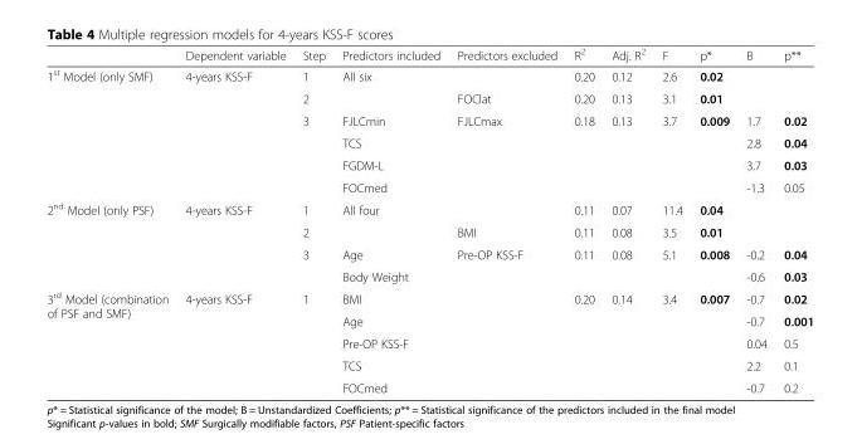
<table><thead><tr><td></td><td>Dependent variable</td><td>Step</td><td>Predictors included</td><td>Predictors excluded</td><td>R<sup>2</sup></td><td>Adj. R<sup>2</sup></td><td>F</td><td>p*</td><td>B</td><td>p**</td></tr></thead><tbody><tr><td rowspan="6">1<sup>st</sup> Model (only SMF)</td><td>4-years KSS-F</td><td>1</td><td colspan="2">All six</td><td>0.20</td><td>0.12</td><td>2.6</td><td>0.02</td><td></td><td></td></tr><tr><td></td><td>2</td><td></td><td>FOClat</td><td>0.20</td><td>0.13</td><td>3.1</td><td>0.01</td><td></td><td></td></tr><tr><td></td><td>3</td><td>FJLCmin</td><td>FJLCmax</td><td>0.18</td><td>0.13</td><td>3.7</td><td>0.009</td><td>1.7</td><td>0.02</td></tr><tr><td></td><td></td><td>TCS</td><td></td><td></td><td></td><td></td><td></td><td>2.8</td><td>0.04</td></tr><tr><td></td><td></td><td colspan="2">FGDM-L</td><td></td><td></td><td></td><td></td><td>3.7</td><td>0.03</td></tr><tr><td></td><td></td><td colspan="2">FOCmed</td><td></td><td></td><td></td><td></td><td>-1.3</td><td>0.05</td></tr><tr><td rowspan="4">2<sup>nd</sup> Model (only PSF)</td><td>4-years KSS-F</td><td>1</td><td colspan="2">All four</td><td>0.11</td><td>0.07</td><td>11.4</td><td>0.04</td><td></td><td></td></tr><tr><td></td><td>2</td><td></td><td>BMI</td><td>0.11</td><td>0.08</td><td>3.5</td><td>0.01</td><td></td><td></td></tr><tr><td></td><td>3</td><td>Age</td><td>Pre-OP KSS-F</td><td>0.11</td><td>0.08</td><td>5.1</td><td>0.008</td><td>-0.2</td><td>0.04</td></tr><tr><td></td><td></td><td colspan="2">Body Weight</td><td></td><td></td><td></td><td></td><td>-0.6</td><td>0.03</td></tr><tr><td rowspan="5">3<sup>rd</sup> Model (combination of PSF and SMF)</td><td>4-years KSS-F</td><td>1</td><td colspan="2">BMI</td><td>0.20</td><td>0.14</td><td>3.4</td><td>0.007</td><td>-0.7</td><td>0.02</td></tr><tr><td></td><td></td><td colspan="2">Age</td><td></td><td></td><td></td><td></td><td>-0.7</td><td>0.001</td></tr><tr><td></td><td></td><td colspan="2">Pre-OP KSS-F</td><td></td><td></td><td></td><td></td><td>0.04</td><td>0.5</td></tr><tr><td></td><td></td><td colspan="2">TCS</td><td></td><td></td><td></td><td></td><td>2.2</td><td>0.1</td></tr><tr><td></td><td></td><td colspan="2">FOCmed</td><td></td><td></td><td></td><td></td><td>-0.7</td><td>0.2</td></tr></tbody></table>